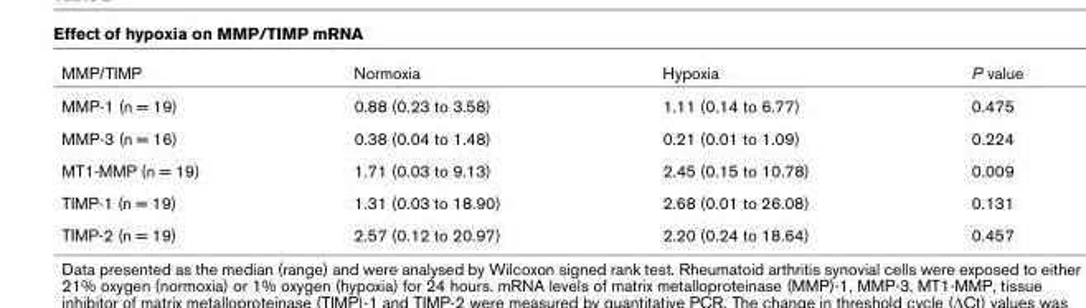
<table><thead><tr><td>MMP/TIMP</td><td>Normoxia</td><td>Hypoxia</td><td>P value</td></tr></thead><tbody><tr><td>MMP-1 (n = 19)</td><td>0.88 (0.23 to 3.58)</td><td>1.11 (0.14 to 6.77)</td><td>0.475</td></tr><tr><td>MMP-3 (n = 16)</td><td>0.38 (0.04 to 1.48)</td><td>0.21 (0.01 to 1.09)</td><td>0.224</td></tr><tr><td>MT1-MMP (n = 19)</td><td>1.71 (0.03 to 9.13)</td><td>2.45 (0.15 to 10.78)</td><td>0.009</td></tr><tr><td>TIMP-1 (n = 19)</td><td>1.31 (0.03 to 18.90)</td><td>2.68 (0.01 to 26.08)</td><td>0.131</td></tr><tr><td>TIMP-2 (n = 19)</td><td>2.57 (0.12 to 20.97)</td><td>2.20 (0.24 to 18.64)</td><td>0.457</td></tr></tbody></table>